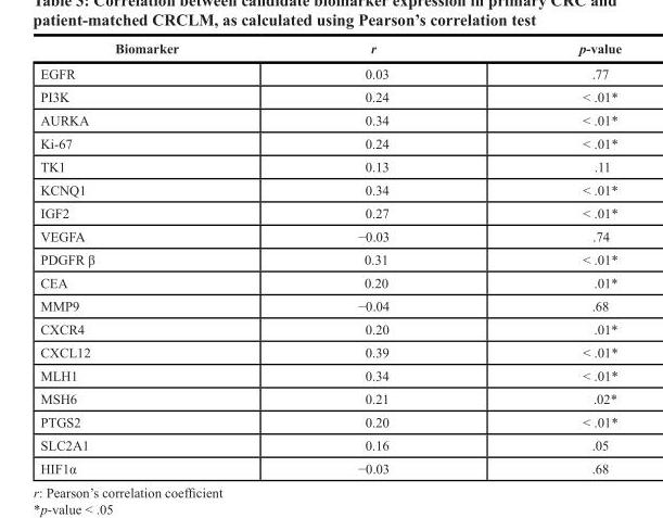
<table><thead><tr><td>Biomarker</td><td>r</td><td>pvalue</td></tr></thead><tbody><tr><td>EGFR</td><td>0.03</td><td>.77</td></tr><tr><td>PI3K</td><td>0.24</td><td>&lt; .01*</td></tr><tr><td>AURKA</td><td>0.34</td><td>&lt; .01*</td></tr><tr><td>Ki-67</td><td>0.24</td><td>&lt; .01*</td></tr><tr><td>TK1</td><td>0.13</td><td>.11</td></tr><tr><td>KCNQ1</td><td>0.34</td><td>&lt; .01*</td></tr><tr><td>IGF2</td><td>0.27</td><td>&lt; .01*</td></tr><tr><td>VEGFA</td><td>−0.03</td><td>.74</td></tr><tr><td>PDGFR β</td><td>0.31</td><td>&lt; .01*</td></tr><tr><td>CEA</td><td>0.20</td><td>.01*</td></tr><tr><td>MMP9</td><td>−0.04</td><td>.68</td></tr><tr><td>CXCR4</td><td>0.20</td><td>.01*</td></tr><tr><td>CXCL12</td><td>0.39</td><td>&lt; .01*</td></tr><tr><td>MLH1</td><td>0.34</td><td>&lt; .01*</td></tr><tr><td>MSH6</td><td>0.21</td><td>.02*</td></tr><tr><td>PTGS2</td><td>0.20</td><td>&lt; .01*</td></tr><tr><td>SLC2A1</td><td>0.16</td><td>.05</td></tr><tr><td>HIF1α</td><td>−0.03</td><td>.68</td></tr></tbody></table>